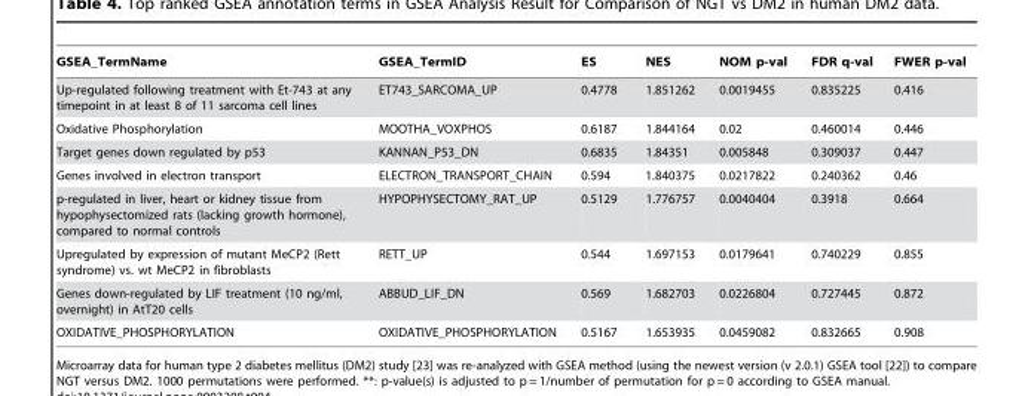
<table><thead><tr><td>GSEA_TermName</td><td>GSEA_TermID</td><td>ES</td><td>NES</td><td>NOM p-val</td><td>FDR q-val</td><td>FWER p-val</td></tr></thead><tbody><tr><td>Up-regulated following treatment with Et-743 at any timepoint in at least 8 of 11 sarcoma cell lines</td><td>ET743_SARCOMA_UP</td><td>0.4778</td><td>1.851262</td><td>0.0019455</td><td>0.835225</td><td>0.416</td></tr><tr><td>Oxidative Phosphorylation</td><td>MOOTHA_VOXPHOS</td><td>0.6187</td><td>1.844164</td><td>0.02</td><td>0.460014</td><td>0.446</td></tr><tr><td>Target genes down regulated by p53</td><td>KANNAN_P53_DN</td><td>0.6835</td><td>1.84351</td><td>0.005848</td><td>0.309037</td><td>0.447</td></tr><tr><td>Genes involved in electron transport</td><td>ELECTRON_TRANSPORT_CHAIN</td><td>0.594</td><td>1.840375</td><td>0.0217822</td><td>0.240362</td><td>0.46</td></tr><tr><td>p-regulated in liver, heart or kidney tissue from hypophysectomized rats (lacking growth hormone), compared to normal controls</td><td>HYPOPHYSECTOMY_RAT_UP</td><td>0.5129</td><td>1.776757</td><td>0.0040404</td><td>0.3918</td><td>0.664</td></tr><tr><td>Upregulated by expression of mutant MeCP2 (Rett syndrome) vs. wt MeCP2 in fibroblasts</td><td>RETT_UP</td><td>0.544</td><td>1.697153</td><td>0.0179641</td><td>0.740229</td><td>0.855</td></tr><tr><td>Genes down-regulated by LIF treatment (10 ng/ml, overnight) in AtT20 cells</td><td>ABBUD_LIF_DN</td><td>0.569</td><td>1.682703</td><td>0.0226804</td><td>0.727445</td><td>0.872</td></tr><tr><td>OXIDATIVE_PHOSPHORYLATION</td><td>OXIDATIVE_PHOSPHORYLATION</td><td>0.5167</td><td>1.653935</td><td>0.0459082</td><td>0.832665</td><td>0.908</td></tr></tbody></table>